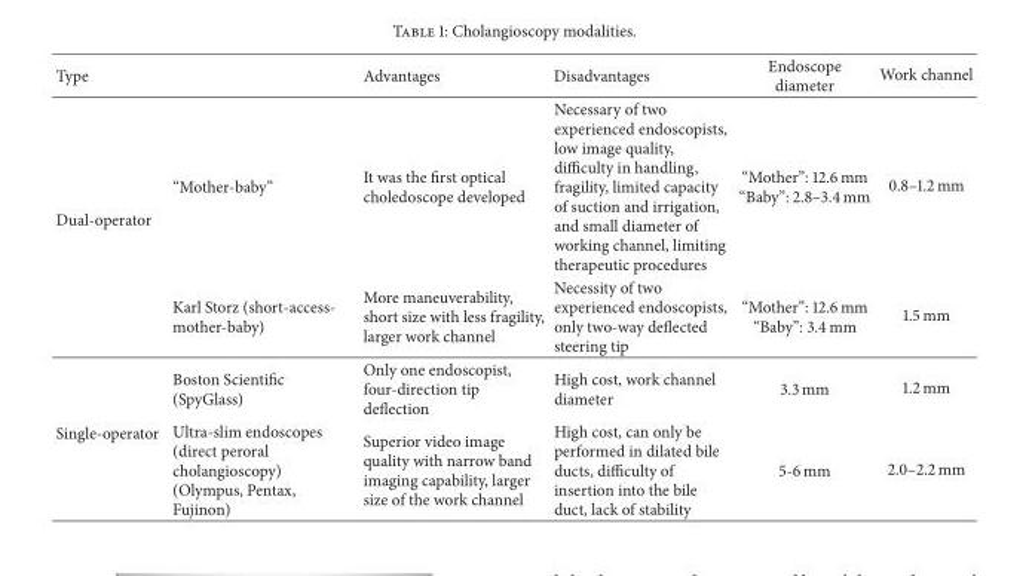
<table><thead><tr><td>Type</td><td></td><td>Advantages</td><td>Disadvantages</td><td>Endoscope diameter</td><td>Work channel</td></tr></thead><tbody><tr><td rowspan="2">Dual-operator</td><td>“Mother-baby”</td><td>It was the first optical choledoscope developed</td><td>Necessary of two experienced endoscopists, low image quality, difficulty in handling, fragility, limited capacity of suction and irrigation, and small diameter of working channel, limiting therapeutic procedures</td><td>“Mother”: 12.6 mm “Baby”: 2.8–3.4 mm</td><td>0.8–1.2 mm</td></tr><tr><td>Karl Storz (short-access- mother-baby)</td><td>More maneuverability, short size with less fragility, larger work channel</td><td>Necessity of two experienced endoscopists, only two-way deflected steering tip</td><td>“Mother”: 12.6 mm “Baby”: 3.4 mm</td><td>1.5 mm</td></tr><tr><td rowspan="2">Single-operator</td><td>Boston Scientific (SpyGlass)</td><td>Only one endoscopist, four-direction tip deflection</td><td>High cost, work channel diameter</td><td>3.3 mm</td><td>1.2 mm</td></tr><tr><td>Ultra-slim endoscopes (direct peroral cholangioscopy) (Olympus, Pentax, Fujinon)</td><td>Superior video image quality with narrow band imaging capability, larger size of the work channel</td><td>High cost, can only be performed in dilated bile ducts, difficulty of insertion into the bile duct, lack of stability</td><td>5-6 mm</td><td>2.0–2.2 mm</td></tr></tbody></table>